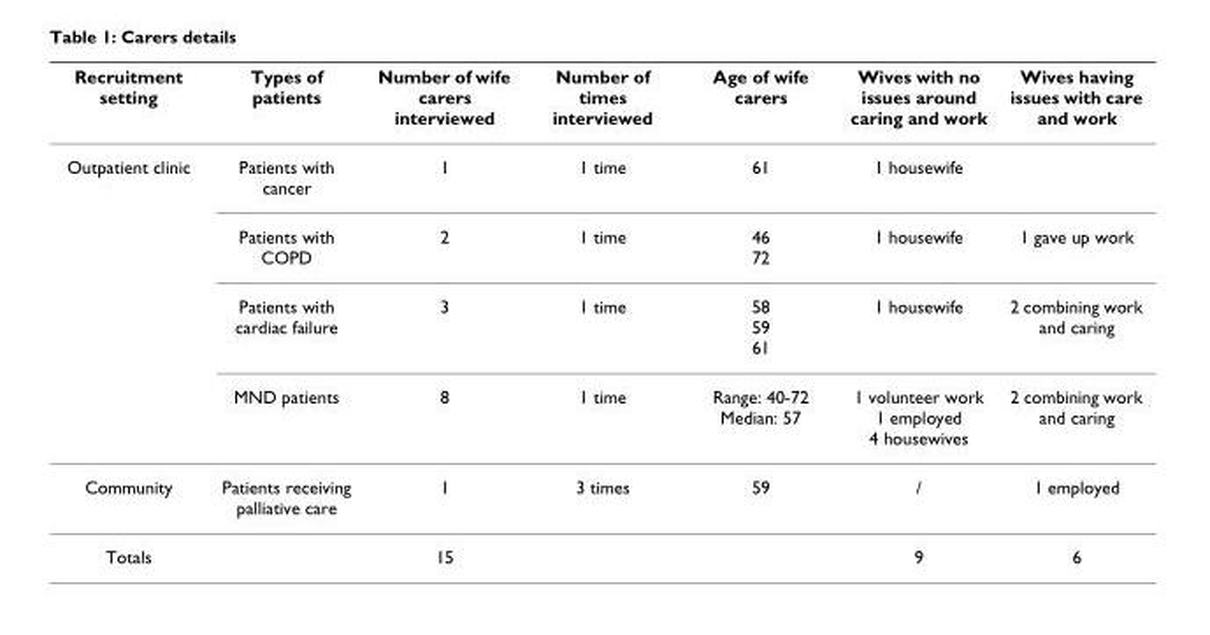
<table><thead><tr><td>Recruitment setting</td><td>Types of patients</td><td>Number of wife carers interviewed</td><td>Number of times interviewed</td><td>Age of wife carers</td><td>Wives with no issues around caring and work</td><td>Wives having issues with care and work</td></tr></thead><tbody><tr><td rowspan="4">Outpatient clinic</td><td>Patients with cancer</td><td>1</td><td>1 time</td><td>61</td><td>1 housewife</td><td></td></tr><tr><td>Patients with COPD</td><td>2</td><td>1 time</td><td>46 72</td><td>1 housewife</td><td>1 gave up work</td></tr><tr><td>Patients with cardiac failure</td><td>3</td><td>1 time</td><td>58 59 61</td><td>1 housewife</td><td>2 combining work and caring</td></tr><tr><td>MND patients</td><td>8</td><td>1 time</td><td>Range: 40-72 Median: 57</td><td>1 volunteer work 1 employed 4 housewives</td><td>2 combining work and caring</td></tr><tr><td>Community</td><td>Patients receiving palliative care</td><td>1</td><td>3 times</td><td>59</td><td>/</td><td>1 employed</td></tr><tr><td>Totals</td><td></td><td>15</td><td></td><td></td><td>9</td><td>6</td></tr></tbody></table>